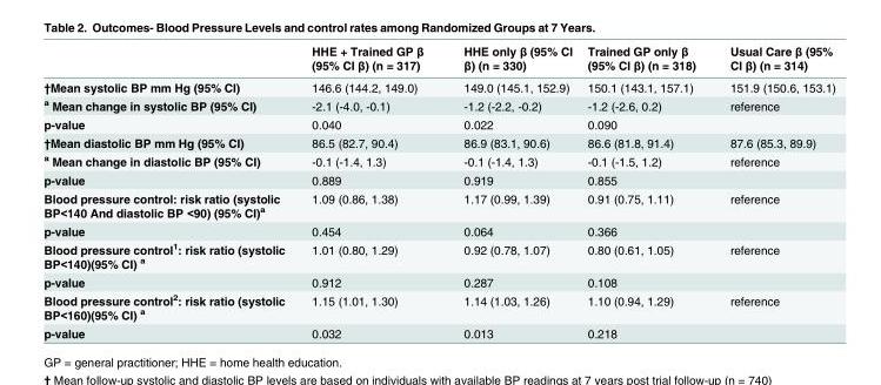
<table><thead><tr><td></td><td>HHE + Trained GP β (95% CI β) (n = 317)</td><td>HHE only β (95% CI β) (n = 330)</td><td>Trained GP only β (95% CI β) (n = 318)</td><td>Usual Care β (95% CI β) (n = 314)</td></tr></thead><tbody><tr><td>†Mean systolic BP mm Hg (95% CI)</td><td>146.6 (144.2, 149.0)</td><td>149.0 (145.1, 152.9)</td><td>150.1 (143.1, 157.1)</td><td>151.9 (150.6, 153.1)</td></tr><tr><td><sup>a</sup> Mean change in systolic BP (95% CI)</td><td>-2.1 (-4.0, -0.1)</td><td>-1.2 (-2.2, -0.2)</td><td>-1.2 (-2.6, 0.2)</td><td>reference</td></tr><tr><td>p-value</td><td>0.040</td><td>0.022</td><td>0.090</td><td></td></tr><tr><td>†Mean diastolic BP mm Hg (95% CI)</td><td>86.5 (82.7, 90.4)</td><td>86.9 (83.1, 90.6)</td><td>86.6 (81.8, 91.4)</td><td>87.6 (85.3, 89.9)</td></tr><tr><td><sup>a</sup> Mean change in diastolic BP (95% CI)</td><td>-0.1 (-1.4, 1.3)</td><td>-0.1 (-1.4, 1.3)</td><td>-0.1 (-1.5, 1.2)</td><td>reference</td></tr><tr><td>p-value</td><td>0.889</td><td>0.919</td><td>0.855</td><td></td></tr><tr><td>Blood pressure control: risk ratio (systolic BP&lt;140 And diastolic BP &lt;90) (95% CI)<sup>a</sup></td><td>1.09 (0.86, 1.38)</td><td>1.17 (0.99, 1.39)</td><td>0.91 (0.75, 1.11)</td><td>reference</td></tr><tr><td>p-value</td><td>0.454</td><td>0.064</td><td>0.366</td><td></td></tr><tr><td>Blood pressure control<sup>1</sup>: risk ratio (systolic BP&lt;140)(95% CI) <sup>a</sup></td><td>1.01 (0.80, 1.29)</td><td>0.92 (0.78, 1.07)</td><td>0.80 (0.61, 1.05)</td><td>reference</td></tr><tr><td>p-value</td><td>0.912</td><td>0.287</td><td>0.108</td><td></td></tr><tr><td>Blood pressure control<sup>2</sup>: risk ratio (systolic BP&lt;160)(95% CI) <sup>a</sup></td><td>1.15 (1.01, 1.30)</td><td>1.14 (1.03, 1.26)</td><td>1.10 (0.94, 1.29)</td><td>reference</td></tr><tr><td>p-value</td><td>0.032</td><td>0.013</td><td>0.218</td><td></td></tr></tbody></table>